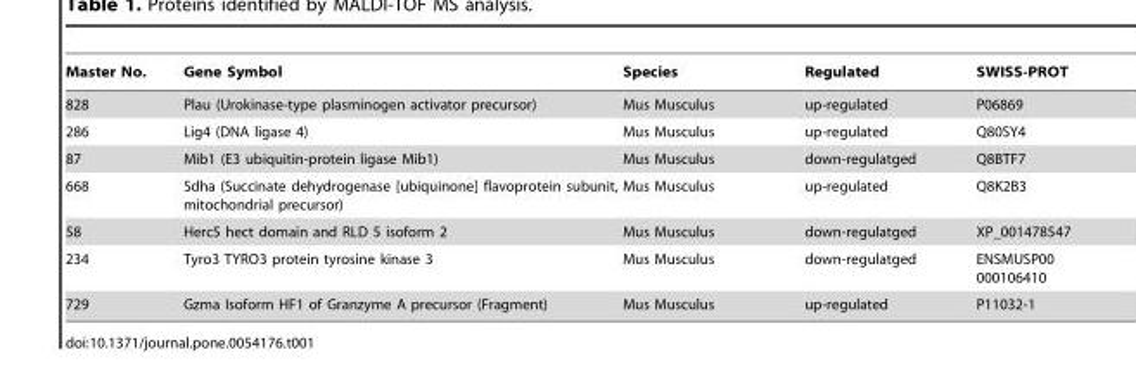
<table><thead><tr><td>Master No.</td><td>Gene Symbol</td><td>Species</td><td>Regulated</td><td>SWISS-PROT</td></tr></thead><tbody><tr><td>828</td><td>Plau (Urokinase-type plasminogen activator precursor)</td><td>Mus Musculus</td><td>up-regulated</td><td>P06869</td></tr><tr><td>286</td><td>Lig4 (DNA ligase 4)</td><td>Mus Musculus</td><td>up-regulated</td><td>Q80SY4</td></tr><tr><td>87</td><td>Mib1 (E3 ubiquitin-protein ligase Mib1)</td><td>Mus Musculus</td><td>down-regulatged</td><td>Q8BTF7</td></tr><tr><td>668</td><td>Sdha (Succinate dehydrogenase [ubiquinone] flavoprotein subunit, mitochondrial precursor)</td><td>Mus Musculus</td><td>up-regulated</td><td>Q8K2B3</td></tr><tr><td>58</td><td>Herc5 hect domain and RLD 5 isoform 2</td><td>Mus Musculus</td><td>down-regulatged</td><td>XP_001478547</td></tr><tr><td>234</td><td>Tyro3 TYRO3 protein tyrosine kinase 3</td><td>Mus Musculus</td><td>down-regulatged</td><td>ENSMUSP00 000106410</td></tr><tr><td>729</td><td>Gzma Isoform HF1 of Granzyme A precursor (Fragment)</td><td>Mus Musculus</td><td>up-regulated</td><td>P11032-1</td></tr></tbody></table>